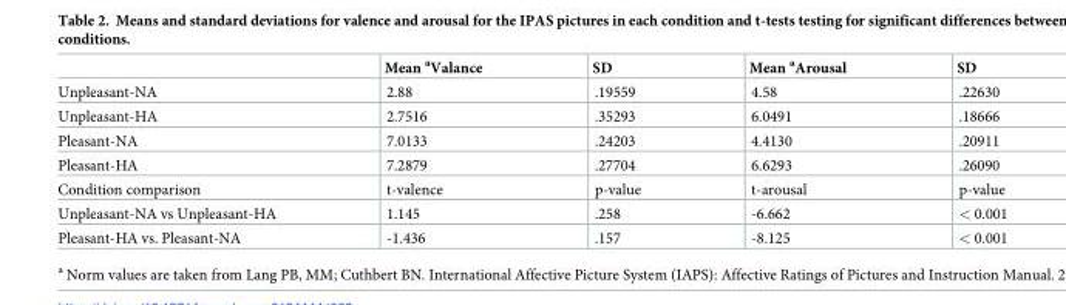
<table><thead><tr><td></td><td>Mean <sup>a</sup>Valance</td><td>SD</td><td>Mean <sup>a</sup>Arousal</td><td>SD</td></tr></thead><tbody><tr><td>Unpleasant-NA</td><td>2.88</td><td>.19559</td><td>4.58</td><td>.22630</td></tr><tr><td>Unpleasant-HA</td><td>2.7516</td><td>.35293</td><td>6.0491</td><td>.18666</td></tr><tr><td>Pleasant-NA</td><td>7.0133</td><td>.24203</td><td>4.4130</td><td>.20911</td></tr><tr><td>Pleasant-HA</td><td>7.2879</td><td>.27704</td><td>6.6293</td><td>.26090</td></tr><tr><td>Condition comparison</td><td>t-valence</td><td>p-value</td><td>t-arousal</td><td>p-value</td></tr><tr><td>Unpleasant-NA vs Unpleasant-HA</td><td>1.145</td><td>.258</td><td>-6.662</td><td>&lt; 0.001</td></tr><tr><td>Pleasant-HA vs. Pleasant-NA</td><td>-1.436</td><td>.157</td><td>-8.125</td><td>&lt; 0.001</td></tr></tbody></table>